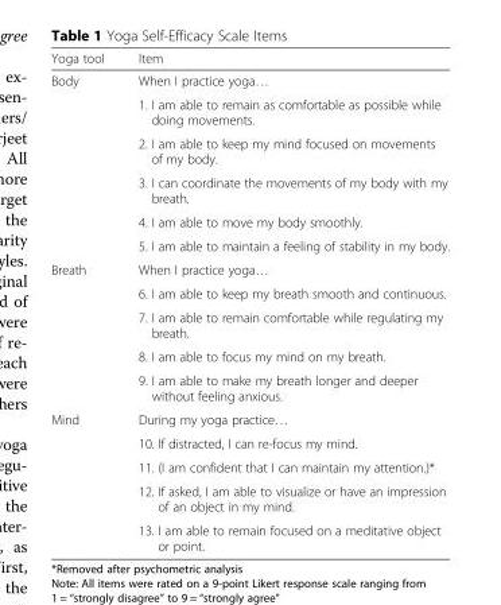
<table><thead><tr><td>Yoga tool</td><td>Item</td></tr></thead><tbody><tr><td rowspan="6">Body</td><td>When I practice yoga…</td></tr><tr><td>1. I am able to remain as comfortable as possible while doing movements.</td></tr><tr><td>2. I am able to keep my mind focused on movements of my body.</td></tr><tr><td>3. I can coordinate the movements of my body with my breath.</td></tr><tr><td>4. I am able to move my body smoothly.</td></tr><tr><td>5. I am able to maintain a feeling of stability in my body.</td></tr><tr><td rowspan="5">Breath</td><td>When I practice yoga…</td></tr><tr><td>6. I am able to keep my breath smooth and continuous.</td></tr><tr><td>7. I am able to remain comfortable while regulating my breath.</td></tr><tr><td>8. I am able to focus my mind on my breath.</td></tr><tr><td>9. I am able to make my breath longer and deeper without feeling anxious.</td></tr><tr><td rowspan="5">Mind</td><td>During my yoga practice…</td></tr><tr><td>10. If distracted, I can re-focus my mind.</td></tr><tr><td>11. (I am confident that I can maintain my attention.)*</td></tr><tr><td>12. If asked, I am able to visualize or have an impression of an object in my mind.</td></tr><tr><td>13. I am able to remain focused on a meditative object or point.</td></tr></tbody></table>